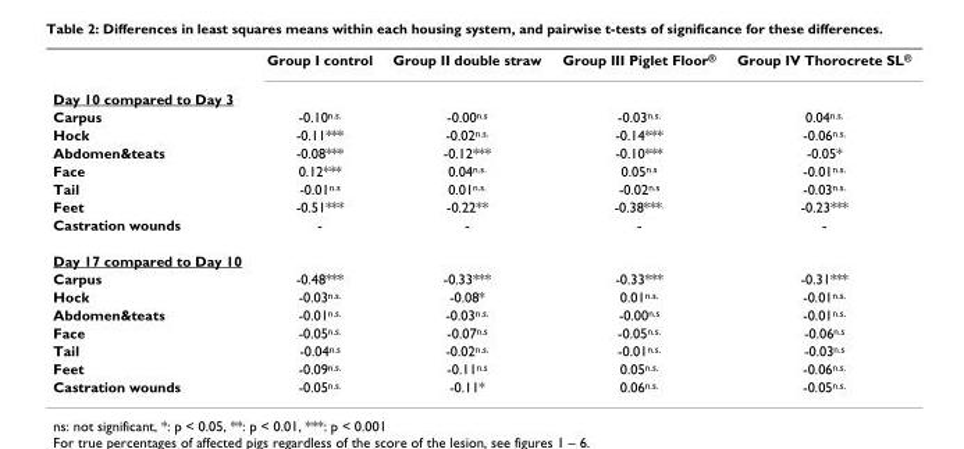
<table><thead><tr><td></td><td>Group I control</td><td>Group II double straw</td><td>Group III Piglet Floor<sup>®</sup></td><td>Group IV Thorocrete SL<sup>®</sup></td></tr></thead><tbody><tr><td colspan="5">Day 10 compared to Day 3</td></tr><tr><td>Carpus</td><td>-0.10<sup>n.s.</sup></td><td>-0.00<sup>n.s</sup></td><td>-0.03<sup>n.s.</sup></td><td>0.04<sup>n.s.</sup></td></tr><tr><td>Hock</td><td>-0.11***</td><td>-0.02<sup>n.s.</sup></td><td>-0.14***</td><td>-0.06<sup>n.s.</sup></td></tr><tr><td>Abdomen&amp;teats</td><td>-0.08***</td><td>-0.12***</td><td>-0.10***</td><td>-0.05*</td></tr><tr><td>Face</td><td>0.12***</td><td>0.04<sup>n.s.</sup></td><td>0.05<sup>n.s</sup></td><td>-0.01<sup>n.s.</sup></td></tr><tr><td>Tail</td><td>-0.01<sup>n.s</sup></td><td>0.01<sup>n.s.</sup></td><td>-0.02<sup>n.s</sup></td><td>-0.03<sup>n.s.</sup></td></tr><tr><td>Feet</td><td>-0.51***</td><td>-0.22**</td><td>-0.38***<sup>.</sup></td><td>-0.23***</td></tr><tr><td>Castration wounds</td><td>-</td><td>-</td><td>-</td><td>-</td></tr><tr><td colspan="5">Day 17 compared to Day 10</td></tr><tr><td>Carpus</td><td>-0.48***</td><td>-0.33***</td><td>-0.33***</td><td>-0.31***</td></tr><tr><td>Hock</td><td>-0.03<sup>n.s.</sup></td><td>-0.08*</td><td>0.01<sup>n.s.</sup></td><td>-0.01<sup>n.s.</sup></td></tr><tr><td>Abdomen&amp;teats</td><td>-0.01<sup>n.s.</sup></td><td>-0.03<sup>n.s.</sup></td><td>-0.00<sup>n.s</sup></td><td>-0.01<sup>n.s.</sup></td></tr><tr><td>Face</td><td>-0.05<sup>n.s.</sup></td><td>-0.07<sup>n.s</sup></td><td>-0.05<sup>n.s.</sup></td><td>-0.06<sup>n.s</sup></td></tr><tr><td>Tail</td><td>-0.04<sup>n.s</sup></td><td>-0.02<sup>n.s.</sup></td><td>-0.01<sup>n.s.</sup></td><td>-0.03<sup>n.s</sup></td></tr><tr><td>Feet</td><td>-0.09<sup>n.s.</sup></td><td>-0.11<sup>n.s</sup></td><td>0.05<sup>n.s.</sup></td><td>-0.06<sup>n.s.</sup></td></tr><tr><td>Castration wounds</td><td>-0.05<sup>n.s.</sup></td><td>-0.11*</td><td>0.06<sup>n.s.</sup></td><td>-0.05<sup>n.s.</sup></td></tr></tbody></table>